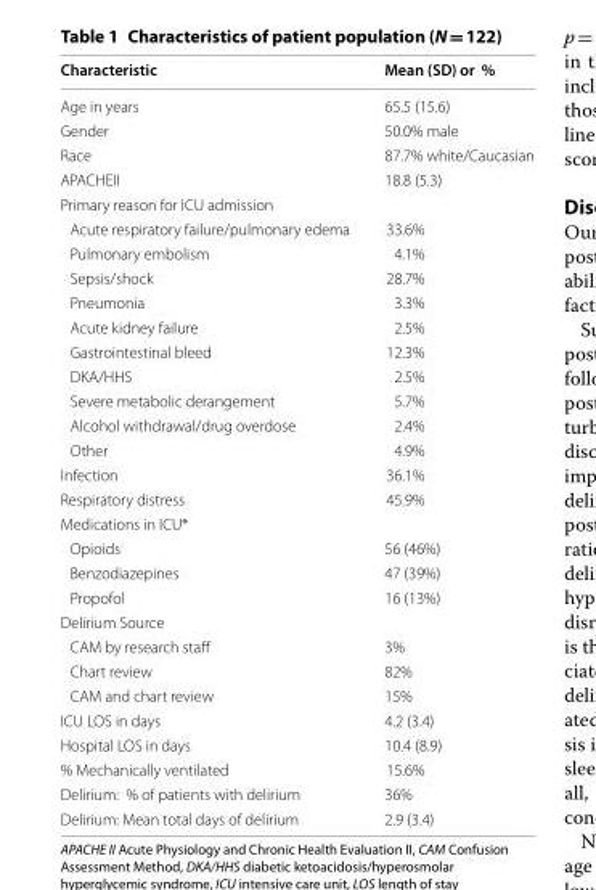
<table><thead><tr><td>Characteristic</td><td>Mean (SD) or %</td></tr></thead><tbody><tr><td>Age in years</td><td>65.5 (15.6)</td></tr><tr><td>Gender</td><td>50.0% male</td></tr><tr><td>Race</td><td>87.7% white/Caucasian</td></tr><tr><td>APACHEII</td><td>18.8 (5.3)</td></tr><tr><td colspan="2">Primary reason for ICU admission</td></tr><tr><td>Acute respiratory failure/pulmonary edema</td><td>33.6%</td></tr><tr><td>Pulmonary embolism</td><td>4.1%</td></tr><tr><td>Sepsis/shock</td><td>28.7%</td></tr><tr><td>Pneumonia</td><td>3.3%</td></tr><tr><td>Acute kidney failure</td><td>2.5%</td></tr><tr><td>Gastrointestinal bleed</td><td>12.3%</td></tr><tr><td>DKA/HHS</td><td>2.5%</td></tr><tr><td>Severe metabolic derangement</td><td>5.7%</td></tr><tr><td>Alcohol withdrawal/drug overdose</td><td>2.4%</td></tr><tr><td>Other</td><td>4.9%</td></tr><tr><td>Infection</td><td>36.1%</td></tr><tr><td>Respiratory distress</td><td>45.9%</td></tr><tr><td colspan="2">Medications in ICU*</td></tr><tr><td>Opioids</td><td>56 (46%)</td></tr><tr><td>Benzodiazepines</td><td>47 (39%)</td></tr><tr><td>Propofol</td><td>16 (13%)</td></tr><tr><td colspan="2">Delirium Source</td></tr><tr><td>CAM by research staff</td><td>3%</td></tr><tr><td>Chart review</td><td>82%</td></tr><tr><td>CAM and chart review</td><td>15%</td></tr><tr><td>ICU LOS in days</td><td>4.2 (3.4)</td></tr><tr><td>Hospital LOS in days</td><td>10.4 (8.9)</td></tr><tr><td>% Mechanically ventilated</td><td>15.6%</td></tr><tr><td>Delirium: % of patients with delirium</td><td>36%</td></tr><tr><td>Delirium: Mean total days of delirium</td><td>2.9 (3.4)</td></tr></tbody></table>